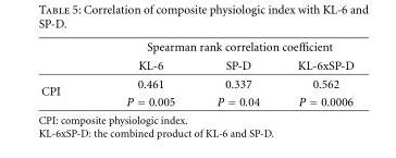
<table><thead><tr><td rowspan="2"></td><td colspan="3">Spearman rank correlation coefficient</td></tr><tr><td>KL-6</td><td>SP-D</td><td>KL-6xSP-D</td></tr></thead><tbody><tr><td rowspan="2">CPI</td><td>0.461</td><td>0.337</td><td>0.562</td></tr><tr><td>P = 0.005</td><td>P = 0.04</td><td>P = 0.0006</td></tr></tbody></table>